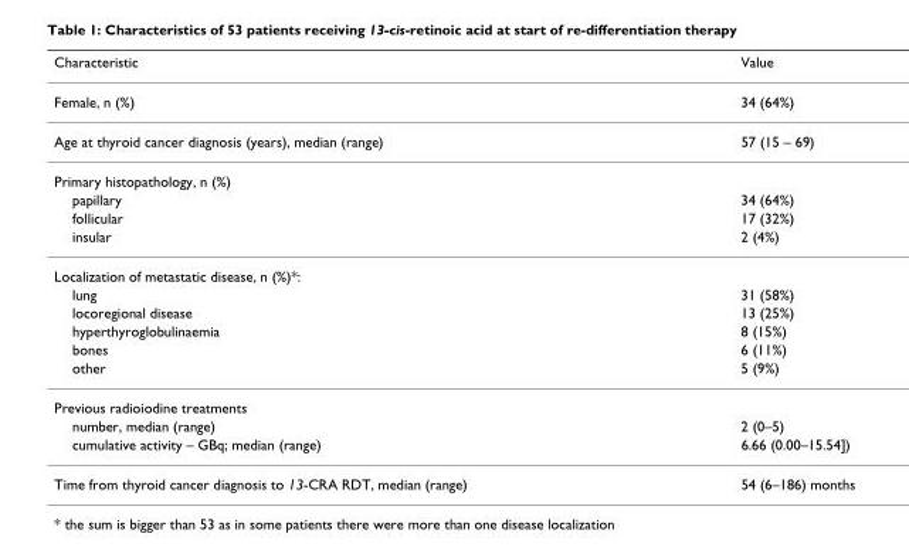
<table><thead><tr><td>Characteristic</td><td>Value</td></tr></thead><tbody><tr><td>Female, n (%)</td><td>34 (64%)</td></tr><tr><td>Age at thyroid cancer diagnosis (years), median (range)</td><td>57 (15 – 69)</td></tr><tr><td colspan="2">Primary histopathology, n (%)</td></tr><tr><td>papillary</td><td>34 (64%)</td></tr><tr><td>follicular</td><td>17 (32%)</td></tr><tr><td>insular</td><td>2 (4%)</td></tr><tr><td colspan="2">Localization of metastatic disease, n (%)*:</td></tr><tr><td>lung</td><td>31 (58%)</td></tr><tr><td>locoregional disease</td><td>13 (25%)</td></tr><tr><td>hyperthyroglobulinaemia</td><td>8 (15%)</td></tr><tr><td>bones</td><td>6 (11%)</td></tr><tr><td>other</td><td>5 (9%)</td></tr><tr><td colspan="2">Previous radioiodine treatments</td></tr><tr><td>number, median (range)</td><td>2 (0–5)</td></tr><tr><td>cumulative activity – GBq; median (range)</td><td>6.66 (0.00–15.54])</td></tr><tr><td>Time from thyroid cancer diagnosis to 13-CRA RDT, median (range)</td><td>54 (6–186) months</td></tr></tbody></table>